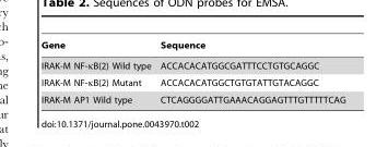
<table><thead><tr><td>Gene</td><td>Sequence</td></tr></thead><tbody><tr><td>IRAK-M NF-κB(2) Wild type</td><td>ACCACACATGGCGATTTCCTGTGCAGGC</td></tr><tr><td>IRAK-M NF-κB(2) Mutant</td><td>ACCACACATGGCTGTGTATTGTACAGGC</td></tr><tr><td>IRAK-M AP1 Wild type</td><td>CTCAGGGGATTGAAACAGGAGTTTGTTTTTCAG</td></tr></tbody></table>